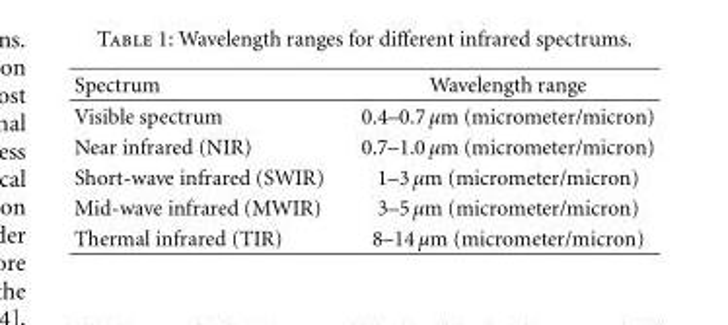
<table><thead><tr><td>Spectrum</td><td>Wavelength range</td></tr></thead><tbody><tr><td>Visible spectrum</td><td>0.4–0.7 μm (micrometer/micron)</td></tr><tr><td>Near infrared (NIR)</td><td>0.7–1.0 μm (micrometer/micron)</td></tr><tr><td>Short-wave infrared (SWIR)</td><td>1–3 μm (micrometer/micron)</td></tr><tr><td>Mid-wave infrared (MWIR)</td><td>3–5 μm (micrometer/micron)</td></tr><tr><td>Thermal infrared (TIR)</td><td>8–14 μm (micrometer/micron)</td></tr></tbody></table>